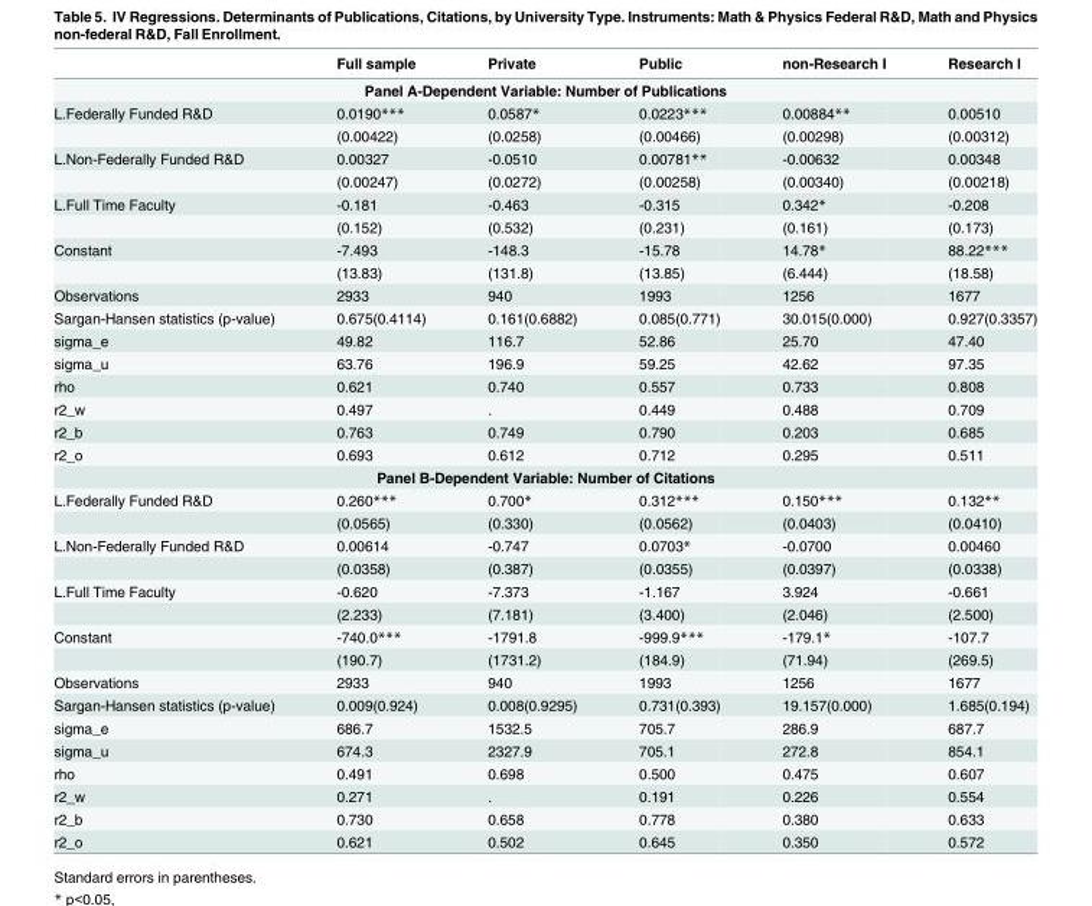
<table><thead><tr><td></td><td>Full sample</td><td>Private</td><td>Public</td><td>non-Research I</td><td>Research l</td></tr></thead><tbody><tr><td colspan="6">Panel A-Dependent Variable: Number of Publications</td></tr><tr><td rowspan="2">L.Federally Funded R&amp;D</td><td>0.0190***</td><td>0.0587*</td><td>0.0223***</td><td>0.00884**</td><td>0.00510</td></tr><tr><td>(0.00422)</td><td>(0.0258)</td><td>(0.00466)</td><td>(0.00298)</td><td>(0.00312)</td></tr><tr><td rowspan="2">L.Non-Federally Funded R&amp;D</td><td>0.00327</td><td>-0.0510</td><td>0.00781**</td><td>-0.00632</td><td>0.00348</td></tr><tr><td>(0.00247)</td><td>(0.0272)</td><td>(0.00258)</td><td>(0.00340)</td><td>(0.00218)</td></tr><tr><td rowspan="2">L.Full Time Faculty</td><td>-0.181</td><td>-0.463</td><td>-0.315</td><td>0.342*</td><td>-0.208</td></tr><tr><td>(0.152)</td><td>(0.532)</td><td>(0.231)</td><td>(0.161)</td><td>(0.173)</td></tr><tr><td rowspan="2">Constant</td><td>-7.493</td><td>-148.3</td><td>-15.78</td><td>14.78*</td><td>88.22***</td></tr><tr><td>(13.83)</td><td>(131.8)</td><td>(13.85)</td><td>(6.444)</td><td>(18.58)</td></tr><tr><td>Observations</td><td>2933</td><td>940</td><td>1993</td><td>1256</td><td>1677</td></tr><tr><td>Sargan-Hansen statistics (p-value)</td><td>0.675(0.4114)</td><td>0.161(0.6882)</td><td>0.085(0.771)</td><td>30.015(0.000)</td><td>0.927(0.3357)</td></tr><tr><td>sigma_e</td><td>49.82</td><td>116.7</td><td>52.86</td><td>25.70</td><td>47.40</td></tr><tr><td>sigma_u</td><td>63.76</td><td>196.9</td><td>59.25</td><td>42.62</td><td>97.35</td></tr><tr><td>rho</td><td>0.621</td><td>0.740</td><td>0.557</td><td>0.733</td><td>0.808</td></tr><tr><td>r2_w</td><td>0.497</td><td>.</td><td>0.449</td><td>0.488</td><td>0.709</td></tr><tr><td>r2_b</td><td>0.763</td><td>0.749</td><td>0.790</td><td>0.203</td><td>0.685</td></tr><tr><td>r2_o</td><td>0.693</td><td>0.612</td><td>0.712</td><td>0.295</td><td>0.511</td></tr><tr><td colspan="6">Panel B-Dependent Variable: Number of Citations</td></tr><tr><td rowspan="2">L.Federally Funded R&amp;D</td><td>0.260***</td><td>0.700*</td><td>0.312***</td><td>0.150***</td><td>0.132**</td></tr><tr><td>(0.0565)</td><td>(0.330)</td><td>(0.0562)</td><td>(0.0403)</td><td>(0.0410)</td></tr><tr><td rowspan="2">L.Non-Federally Funded R&amp;D</td><td>0.00614</td><td>-0.747</td><td>0.0703*</td><td>-0.0700</td><td>0.00460</td></tr><tr><td>(0.0358)</td><td>(0.387)</td><td>(0.0355)</td><td>(0.0397)</td><td>(0.0338)</td></tr><tr><td rowspan="2">L.Full Time Faculty</td><td>-0.620</td><td>-7.373</td><td>-1.167</td><td>3.924</td><td>-0.661</td></tr><tr><td>(2.233)</td><td>(7.181)</td><td>(3.400)</td><td>(2.046)</td><td>(2.500)</td></tr><tr><td rowspan="2">Constant</td><td>-740.0***</td><td>-1791.8</td><td>-999.9***</td><td>-179.1*</td><td>-107.7</td></tr><tr><td>(190.7)</td><td>(1731.2)</td><td>(184.9)</td><td>(71.94)</td><td>(269.5)</td></tr><tr><td>Observations</td><td>2933</td><td>940</td><td>1993</td><td>1256</td><td>1677</td></tr><tr><td>Sargan-Hansen statistics (p-value)</td><td>0.009(0.924)</td><td>0.008(0.9295)</td><td>0.731(0.393)</td><td>19.157(0.000)</td><td>1.685(0.194)</td></tr><tr><td>sigma_e</td><td>686.7</td><td>1532.5</td><td>705.7</td><td>286.9</td><td>687.7</td></tr><tr><td>sigma_u</td><td>674.3</td><td>2327.9</td><td>705.1</td><td>272.8</td><td>854.1</td></tr><tr><td>rho</td><td>0.491</td><td>0.698</td><td>0.500</td><td>0.475</td><td>0.607</td></tr><tr><td>r2_w</td><td>0.271</td><td>.</td><td>0.191</td><td>0.226</td><td>0.554</td></tr><tr><td>r2_b</td><td>0.730</td><td>0.658</td><td>0.778</td><td>0.380</td><td>0.633</td></tr><tr><td>r2_o</td><td>0.621</td><td>0.502</td><td>0.645</td><td>0.350</td><td>0.572</td></tr></tbody></table>